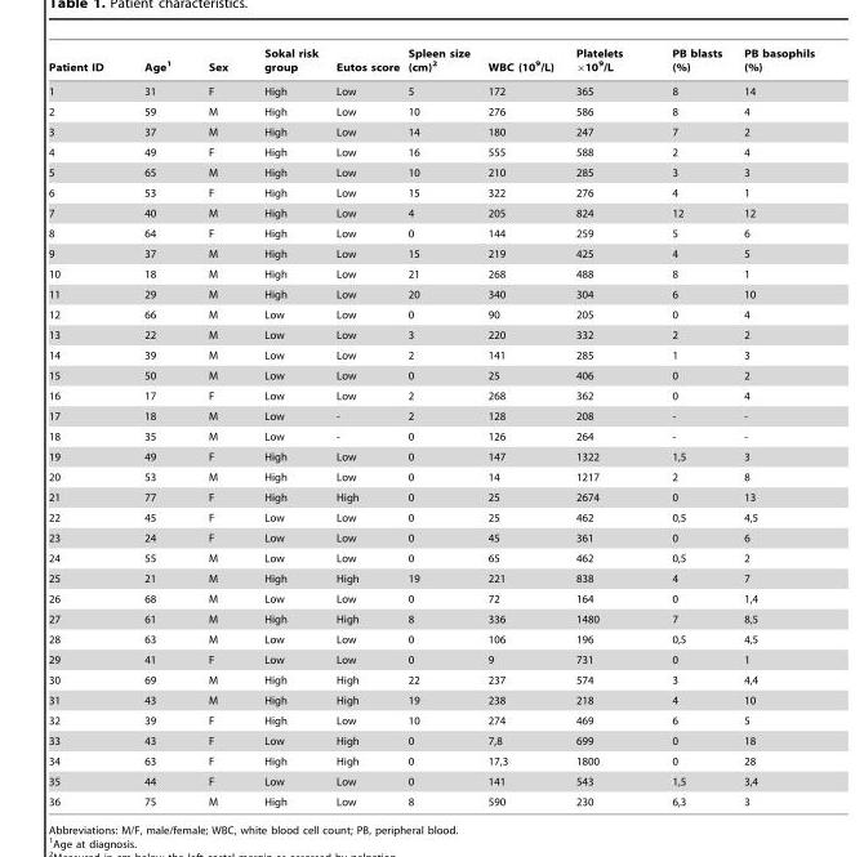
<table><thead><tr><td>Patient ID</td><td>Age<sup>1</sup></td><td>Sex</td><td>Sokal risk group</td><td>Eutos score</td><td>Spleen size (cm)<sup>2</sup></td><td>WBC (10<sup>9</sup>/L)</td><td>Platelets ×10<sup>9</sup>/L</td><td>PB blasts (%)</td><td>PB basophils (%)</td></tr></thead><tbody><tr><td>1</td><td>31</td><td>F</td><td>High</td><td>Low</td><td>5</td><td>172</td><td>365</td><td>8</td><td>14</td></tr><tr><td>2</td><td>59</td><td>M</td><td>High</td><td>Low</td><td>10</td><td>276</td><td>586</td><td>8</td><td>4</td></tr><tr><td>3</td><td>37</td><td>M</td><td>High</td><td>Low</td><td>14</td><td>180</td><td>247</td><td>7</td><td>2</td></tr><tr><td>4</td><td>49</td><td>F</td><td>High</td><td>Low</td><td>16</td><td>555</td><td>588</td><td>2</td><td>4</td></tr><tr><td>5</td><td>65</td><td>M</td><td>High</td><td>Low</td><td>10</td><td>210</td><td>285</td><td>3</td><td>3</td></tr><tr><td>6</td><td>53</td><td>F</td><td>High</td><td>Low</td><td>15</td><td>322</td><td>276</td><td>4</td><td>1</td></tr><tr><td>7</td><td>40</td><td>M</td><td>High</td><td>Low</td><td>4</td><td>205</td><td>824</td><td>12</td><td>12</td></tr><tr><td>8</td><td>64</td><td>F</td><td>High</td><td>Low</td><td>0</td><td>144</td><td>259</td><td>5</td><td>6</td></tr><tr><td>9</td><td>37</td><td>M</td><td>High</td><td>Low</td><td>15</td><td>219</td><td>425</td><td>4</td><td>5</td></tr><tr><td>10</td><td>18</td><td>M</td><td>High</td><td>Low</td><td>21</td><td>268</td><td>488</td><td>8</td><td>1</td></tr><tr><td>11</td><td>29</td><td>M</td><td>High</td><td>Low</td><td>20</td><td>340</td><td>304</td><td>6</td><td>10</td></tr><tr><td>12</td><td>66</td><td>M</td><td>Low</td><td>Low</td><td>0</td><td>90</td><td>205</td><td>0</td><td>4</td></tr><tr><td>13</td><td>22</td><td>M</td><td>Low</td><td>Low</td><td>3</td><td>220</td><td>332</td><td>2</td><td>2</td></tr><tr><td>14</td><td>39</td><td>M</td><td>Low</td><td>Low</td><td>2</td><td>141</td><td>285</td><td>1</td><td>3</td></tr><tr><td>15</td><td>50</td><td>M</td><td>Low</td><td>Low</td><td>0</td><td>25</td><td>406</td><td>0</td><td>2</td></tr><tr><td>16</td><td>17</td><td>F</td><td>Low</td><td>Low</td><td>2</td><td>268</td><td>362</td><td>0</td><td>4</td></tr><tr><td>17</td><td>18</td><td>M</td><td>Low</td><td>-</td><td>2</td><td>128</td><td>208</td><td>-</td><td>-</td></tr><tr><td>18</td><td>35</td><td>M</td><td>Low</td><td>-</td><td>0</td><td>126</td><td>264</td><td>-</td><td>-</td></tr><tr><td>19</td><td>49</td><td>F</td><td>High</td><td>Low</td><td>0</td><td>147</td><td>1322</td><td>1,5</td><td>3</td></tr><tr><td>20</td><td>53</td><td>M</td><td>High</td><td>Low</td><td>0</td><td>14</td><td>1217</td><td>2</td><td>8</td></tr><tr><td>21</td><td>77</td><td>F</td><td>High</td><td>High</td><td>0</td><td>25</td><td>2674</td><td>0</td><td>13</td></tr><tr><td>22</td><td>45</td><td>F</td><td>Low</td><td>Low</td><td>0</td><td>25</td><td>462</td><td>0,5</td><td>4,5</td></tr><tr><td>23</td><td>24</td><td>F</td><td>Low</td><td>Low</td><td>0</td><td>45</td><td>361</td><td>0</td><td>6</td></tr><tr><td>24</td><td>55</td><td>M</td><td>Low</td><td>Low</td><td>0</td><td>65</td><td>462</td><td>0,5</td><td>2</td></tr><tr><td>25</td><td>21</td><td>M</td><td>High</td><td>High</td><td>19</td><td>221</td><td>838</td><td>4</td><td>7</td></tr><tr><td>26</td><td>68</td><td>M</td><td>Low</td><td>Low</td><td>0</td><td>72</td><td>164</td><td>0</td><td>1,4</td></tr><tr><td>27</td><td>61</td><td>M</td><td>High</td><td>High</td><td>8</td><td>336</td><td>1480</td><td>7</td><td>8,5</td></tr><tr><td>28</td><td>63</td><td>M</td><td>Low</td><td>Low</td><td>0</td><td>106</td><td>196</td><td>0,5</td><td>4,5</td></tr><tr><td>29</td><td>41</td><td>F</td><td>Low</td><td>Low</td><td>0</td><td>9</td><td>731</td><td>0</td><td>1</td></tr><tr><td>30</td><td>69</td><td>M</td><td>High</td><td>High</td><td>22</td><td>237</td><td>574</td><td>3</td><td>4,4</td></tr><tr><td>31</td><td>43</td><td>M</td><td>High</td><td>High</td><td>19</td><td>238</td><td>218</td><td>4</td><td>10</td></tr><tr><td>32</td><td>39</td><td>F</td><td>High</td><td>Low</td><td>10</td><td>274</td><td>469</td><td>6</td><td>5</td></tr><tr><td>33</td><td>43</td><td>F</td><td>Low</td><td>High</td><td>0</td><td>7,8</td><td>699</td><td>0</td><td>18</td></tr><tr><td>34</td><td>63</td><td>F</td><td>High</td><td>High</td><td>0</td><td>17,3</td><td>1800</td><td>0</td><td>28</td></tr><tr><td>35</td><td>44</td><td>F</td><td>Low</td><td>Low</td><td>0</td><td>141</td><td>543</td><td>1,5</td><td>3,4</td></tr><tr><td>36</td><td>75</td><td>M</td><td>High</td><td>Low</td><td>8</td><td>590</td><td>230</td><td>6,3</td><td>3</td></tr></tbody></table>